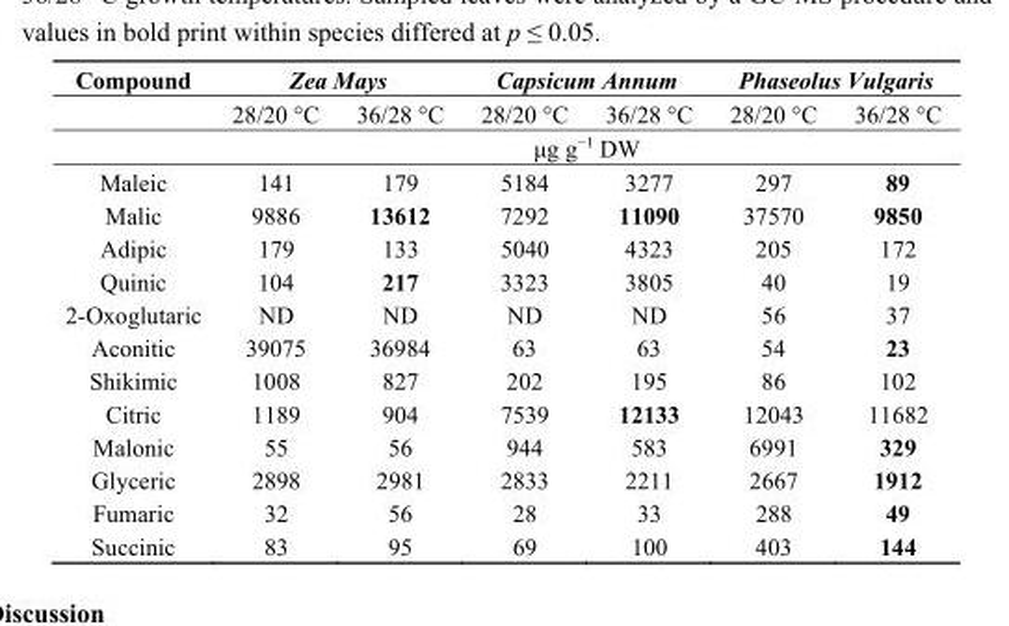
<table><thead><tr><td rowspan="2">Compound</td><td colspan="2">Zea Mays</td><td colspan="2">Capsicum Annum</td><td colspan="2">Phaseolus Vulgaris</td></tr><tr><td>28/20 °C</td><td>36/28 °C</td><td>28/20 °C</td><td>36/28 °C</td><td>28/20 °C</td><td>36/28 °C</td></tr></thead><tbody><tr><td></td><td colspan="6">μg g<sup>−1</sup> DW</td></tr><tr><td>Maleic</td><td>141</td><td>179</td><td>5184</td><td>3277</td><td>297</td><td>89</td></tr><tr><td>Malic</td><td>9886</td><td>13612</td><td>7292</td><td>11090</td><td>37570</td><td>9850</td></tr><tr><td>Adipic</td><td>179</td><td>133</td><td>5040</td><td>4323</td><td>205</td><td>172</td></tr><tr><td>Quinic</td><td>104</td><td>217</td><td>3323</td><td>3805</td><td>40</td><td>19</td></tr><tr><td>2-Oxoglutaric</td><td>ND</td><td>ND</td><td>ND</td><td>ND</td><td>56</td><td>37</td></tr><tr><td>Aconitic</td><td>39075</td><td>36984</td><td>63</td><td>63</td><td>54</td><td>23</td></tr><tr><td>Shikimic</td><td>1008</td><td>827</td><td>202</td><td>195</td><td>86</td><td>102</td></tr><tr><td>Citric</td><td>1189</td><td>904</td><td>7539</td><td>12133</td><td>12043</td><td>11682</td></tr><tr><td>Malonic</td><td>55</td><td>56</td><td>944</td><td>583</td><td>6991</td><td>329</td></tr><tr><td>Glyceric</td><td>2898</td><td>2981</td><td>2833</td><td>2211</td><td>2667</td><td>1912</td></tr><tr><td>Fumaric</td><td>32</td><td>56</td><td>28</td><td>33</td><td>288</td><td>49</td></tr><tr><td>Succinic</td><td>83</td><td>95</td><td>69</td><td>100</td><td>403</td><td>144</td></tr></tbody></table>